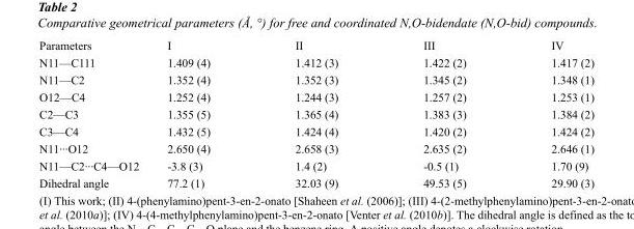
<table><tbody><tr><td>Parameters</td><td>I</td><td>II</td><td>III</td><td>IV</td></tr><tr><td>N11—C111</td><td>1.409 (4)</td><td>1.412 (3)</td><td>1.422 (2)</td><td>1.417 (2)</td></tr><tr><td>N11—C2</td><td>1.352 (4)</td><td>1.352 (3)</td><td>1.345 (2)</td><td>1.348 (1)</td></tr><tr><td>O12—C4</td><td>1.252 (4)</td><td>1.244 (3)</td><td>1.257 (2)</td><td>1.253 (1)</td></tr><tr><td>C2—C3</td><td>1.355 (5)</td><td>1.365 (4)</td><td>1.383 (3)</td><td>1.384 (2)</td></tr><tr><td>C3—C4</td><td>1.432 (5)</td><td>1.424 (4)</td><td>1.420 (2)</td><td>1.424 (2)</td></tr><tr><td>N11···O12</td><td>2.650 (4)</td><td>2.658 (3)</td><td>2.635 (2)</td><td>2.646 (1)</td></tr><tr><td>N11—C2···C4—O12</td><td>-3.8 (3)</td><td>1.4 (2)</td><td>-0.5 (1)</td><td>1.70 (9)</td></tr><tr><td>Dihedral angle</td><td>77.2 (1)</td><td>32.03 (9)</td><td>49.53 (5)</td><td>29.90 (3)</td></tr></tbody></table>